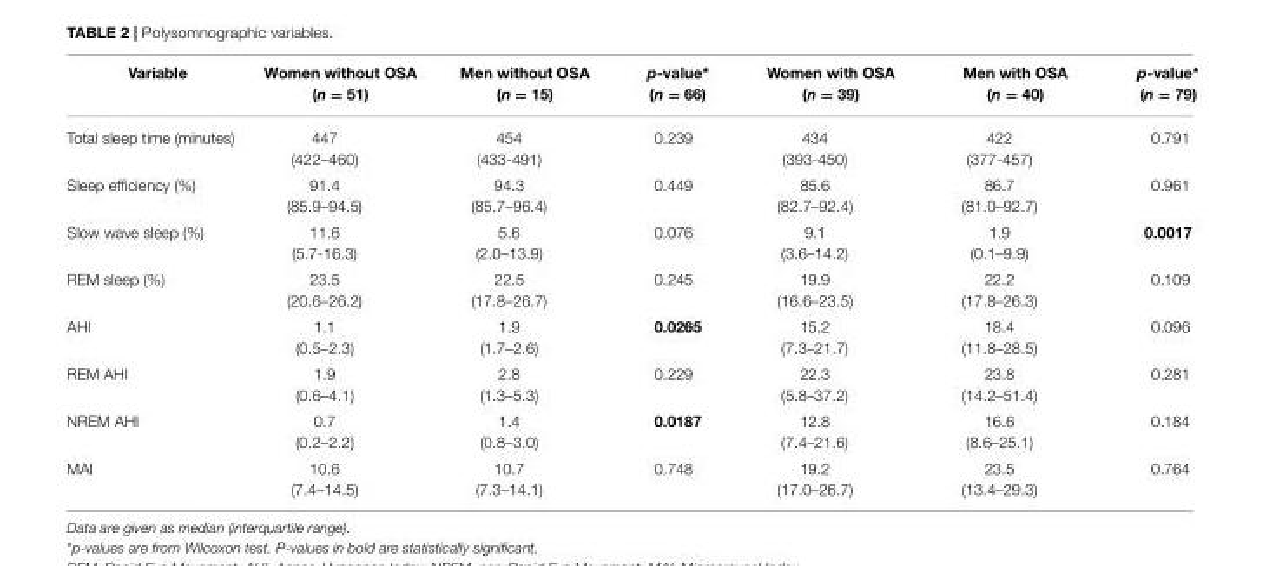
<table><thead><tr><td>Variable</td><td>Women without OSA (n = 51)</td><td>Men without OSA (n = 15)</td><td>p-value* (n = 66)</td><td>Women with OSA (n = 39)</td><td>Men with OSA (n = 40)</td><td>p-value* (n = 79)</td></tr></thead><tbody><tr><td>Total sleep time (minutes)</td><td>447 (422–460)</td><td>454 (433-491)</td><td>0.239</td><td>434 (393-450)</td><td>422 (377-457)</td><td>0.791</td></tr><tr><td>Sleep efficiency (%)</td><td>91.4 (85.9–94.5)</td><td>94.3 (85.7–96.4)</td><td>0.449</td><td>85.6 (82.7–92.4)</td><td>86.7 (81.0–92.7)</td><td>0.961</td></tr><tr><td>Slow wave sleep (%)</td><td>11.6 (5.7-16.3)</td><td>5.6 (2.0–13.9)</td><td>0.076</td><td>9.1 (3.6–14.2)</td><td>1.9 (0.1–9.9)</td><td>0.0017</td></tr><tr><td>REM sleep (%)</td><td>23.5 (20.6–26.2)</td><td>22.5 (17.8–26.7)</td><td>0.245</td><td>19.9 (16.6–23.5)</td><td>22.2 (17.8–26.3)</td><td>0.109</td></tr><tr><td>AHI</td><td>1.1 (0.5–2.3)</td><td>1.9 (1.7–2.6)</td><td>0.0265</td><td>15.2 (7.3–21.7)</td><td>18.4 (11.8–28.5)</td><td>0.096</td></tr><tr><td>REM AHI</td><td>1.9 (0.6–4.1)</td><td>2.8 (1.3–5.3)</td><td>0.229</td><td>22.3 (5.8–37.2)</td><td>23.8 (14.2–51.4)</td><td>0.281</td></tr><tr><td>NREM AHI</td><td>0.7 (0.2–2.2)</td><td>1.4 (0.8–3.0)</td><td>0.0187</td><td>12.8 (7.4–21.6)</td><td>16.6 (8.6–25.1)</td><td>0.184</td></tr><tr><td>MAI</td><td>10.6 (7.4–14.5)</td><td>10.7 (7.3–14.1)</td><td>0.748</td><td>19.2 (17.0–26.7)</td><td>23.5 (13.4–29.3)</td><td>0.764</td></tr></tbody></table>